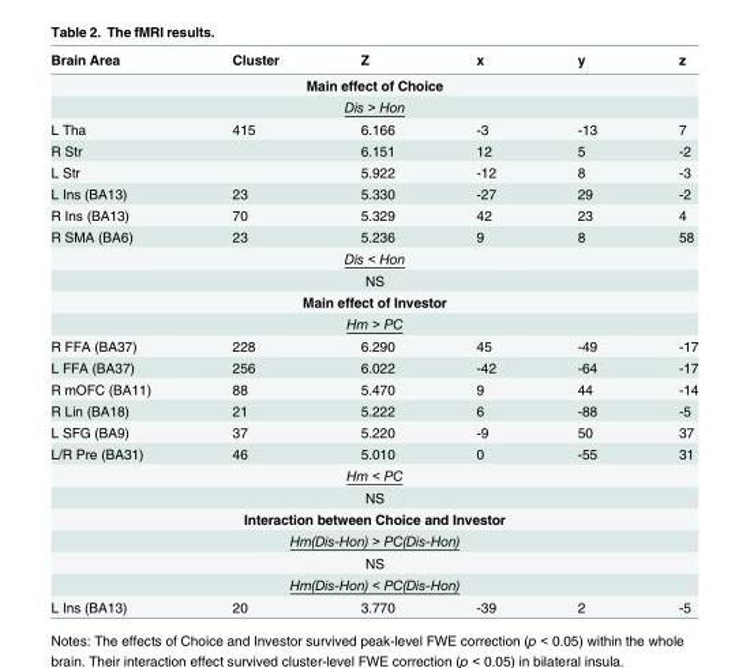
<table><thead><tr><td>Brain Area</td><td>Cluster</td><td>Z</td><td>x</td><td>y</td><td>z</td></tr></thead><tbody><tr><td colspan="6">Main effect of Choice</td></tr><tr><td colspan="6">Dis &gt; Hon</td></tr><tr><td>L Tha</td><td>415</td><td>6.166</td><td>-3</td><td>-13</td><td>7</td></tr><tr><td>R Str</td><td></td><td>6.151</td><td>12</td><td>5</td><td>-2</td></tr><tr><td>L Str</td><td></td><td>5.922</td><td>-12</td><td>8</td><td>-3</td></tr><tr><td>L Ins (BA13)</td><td>23</td><td>5.330</td><td>-27</td><td>29</td><td>-2</td></tr><tr><td>R Ins (BA13)</td><td>70</td><td>5.329</td><td>42</td><td>23</td><td>4</td></tr><tr><td>R SMA (BA6)</td><td>23</td><td>5.236</td><td>9</td><td>8</td><td>58</td></tr><tr><td colspan="6">Dis &lt; Hon</td></tr><tr><td colspan="6">NS</td></tr><tr><td colspan="6">Main effect of Investor</td></tr><tr><td colspan="6">Hm &gt; PC</td></tr><tr><td>R FFA (BA37)</td><td>228</td><td>6.290</td><td>45</td><td>-49</td><td>-17</td></tr><tr><td>L FFA (BA37)</td><td>256</td><td>6.022</td><td>-42</td><td>-64</td><td>-17</td></tr><tr><td>R mOFC (BA11)</td><td>88</td><td>5.470</td><td>9</td><td>44</td><td>-14</td></tr><tr><td>R Lin (BA18)</td><td>21</td><td>5.222</td><td>6</td><td>-88</td><td>-5</td></tr><tr><td>L SFG (BA9)</td><td>37</td><td>5.220</td><td>-9</td><td>50</td><td>37</td></tr><tr><td>L/R Pre (BA31)</td><td>46</td><td>5.010</td><td>0</td><td>-55</td><td>31</td></tr><tr><td colspan="6">Hm &lt; PC</td></tr><tr><td colspan="6">NS</td></tr><tr><td colspan="6">Interaction between Choice and Investor</td></tr><tr><td colspan="6">Hm(Dis-Hon) &gt; PC(Dis-Hon)</td></tr><tr><td colspan="6">NS</td></tr><tr><td colspan="6">Hm(Dis-Hon) &lt; PC(Dis-Hon)</td></tr><tr><td>L Ins (BA13)</td><td>20</td><td>3.770</td><td>-39</td><td>2</td><td>-5</td></tr></tbody></table>